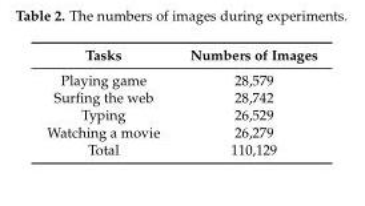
<table><thead><tr><td>Tasks</td><td>Numbers of Images</td></tr></thead><tbody><tr><td>Playing game</td><td>28,579</td></tr><tr><td>Surfing the web</td><td>28,742</td></tr><tr><td>Typing</td><td>26,529</td></tr><tr><td>Watching a movie</td><td>26,279</td></tr><tr><td>Total</td><td>110,129</td></tr></tbody></table>